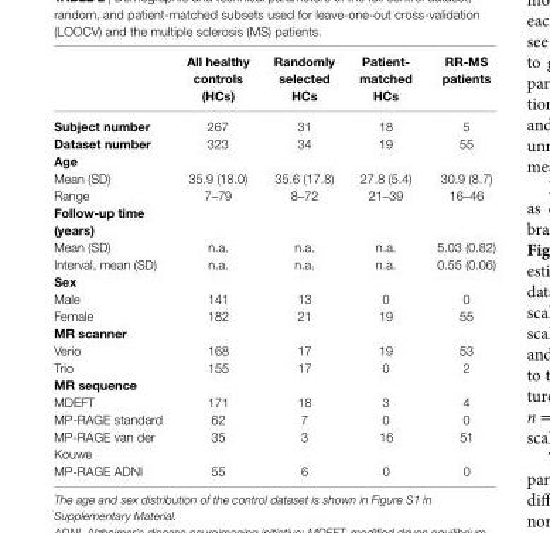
<table><thead><tr><td></td><td>All healthy controls (hCs)</td><td>Randomly selected hCs</td><td>Patient- matched hCs</td><td>RR-Ms patients</td></tr></thead><tbody><tr><td>subject number</td><td>267</td><td>31</td><td>18</td><td>5</td></tr><tr><td>dataset number</td><td>323</td><td>34</td><td>19</td><td>55</td></tr><tr><td colspan="5">Age</td></tr><tr><td>Mean (SD)</td><td>35.9 (18.0)</td><td>35.6 (17.8)</td><td>27.8 (5.4)</td><td>30.9 (8.7)</td></tr><tr><td>Range</td><td>7–79</td><td>8–72</td><td>21–39</td><td>16–46</td></tr><tr><td colspan="5">Follow-up time (years)</td></tr><tr><td>Mean (SD)</td><td>n.a.</td><td>n.a.</td><td>n.a.</td><td>5.03 (0.82)</td></tr><tr><td>Interval, mean (SD)</td><td>n.a.</td><td>n.a.</td><td>n.a.</td><td>0.55 (0.06)</td></tr><tr><td colspan="5">sex</td></tr><tr><td>Male</td><td>141</td><td>13</td><td>0</td><td>0</td></tr><tr><td>Female</td><td>182</td><td>21</td><td>19</td><td>55</td></tr><tr><td colspan="5">MR scanner</td></tr><tr><td>Verio</td><td>168</td><td>17</td><td>19</td><td>53</td></tr><tr><td>Trio</td><td>155</td><td>17</td><td>0</td><td>2</td></tr><tr><td colspan="5">MR sequence</td></tr><tr><td>MDEFT</td><td>171</td><td>18</td><td>3</td><td>4</td></tr><tr><td>MP-RAGE standard</td><td>62</td><td>7</td><td>0</td><td>0</td></tr><tr><td>MP-RAGE van der Kouwe</td><td>35</td><td>3</td><td>16</td><td>51</td></tr><tr><td>MP-RAGE ADNI</td><td>55</td><td>6</td><td>0</td><td>0</td></tr></tbody></table>